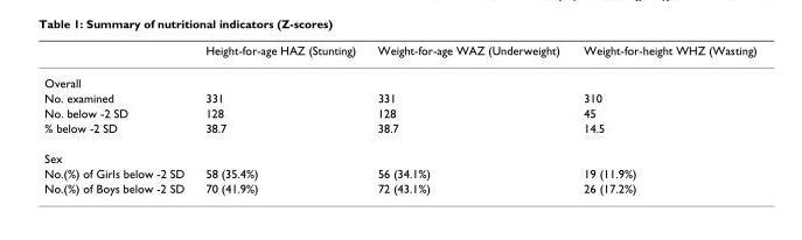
<table><thead><tr><td></td><td>Height-for-age HAZ (Stunting)</td><td>Weight-for-age WAZ (Underweight)</td><td>Weight-for-height WHZ (Wasting)</td></tr></thead><tbody><tr><td colspan="4">Overall</td></tr><tr><td>No. examined</td><td>331</td><td>331</td><td>310</td></tr><tr><td>No. below -2 SD</td><td>128</td><td>128</td><td>45</td></tr><tr><td>% below -2 SD</td><td>38.7</td><td>38.7</td><td>14.5</td></tr><tr><td colspan="4">Sex</td></tr><tr><td>No.(%) of Girls below -2 SD</td><td>58 (35.4%)</td><td>56 (34.1%)</td><td>19 (11.9%)</td></tr><tr><td>No.(%) of Boys below -2 SD</td><td>70 (41.9%)</td><td>72 (43.1%)</td><td>26 (17.2%)</td></tr></tbody></table>